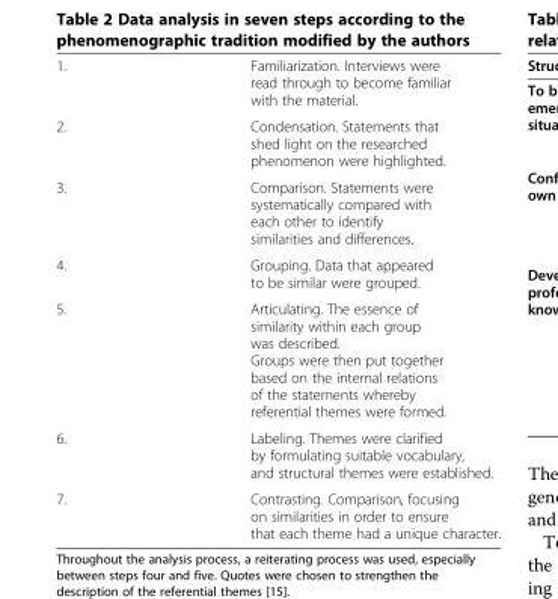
<table><tbody><tr><td>1.</td><td>Familiarization. Interviews were read through to become familiar with the material.</td></tr><tr><td>2.</td><td>Condensation. Statements that shed light on the researched phenomenon were highlighted.</td></tr><tr><td>3.</td><td>Comparison. Statements were systematically compared with each other to identify similarities and differences.</td></tr><tr><td>4.</td><td>Grouping. Data that appeared to be similar were grouped.</td></tr><tr><td>5.</td><td>Articulating. The essence of similarity within each group was described. Groups were then put together based on the internal relations of the statements whereby referential themes were formed.</td></tr><tr><td>6.</td><td>Labeling. Themes were clarified by formulating suitable vocabulary, and structural themes were established.</td></tr><tr><td>7.</td><td>Contrasting. Comparison, focusing on similarities in order to ensure that each theme had a unique character.</td></tr></tbody></table>